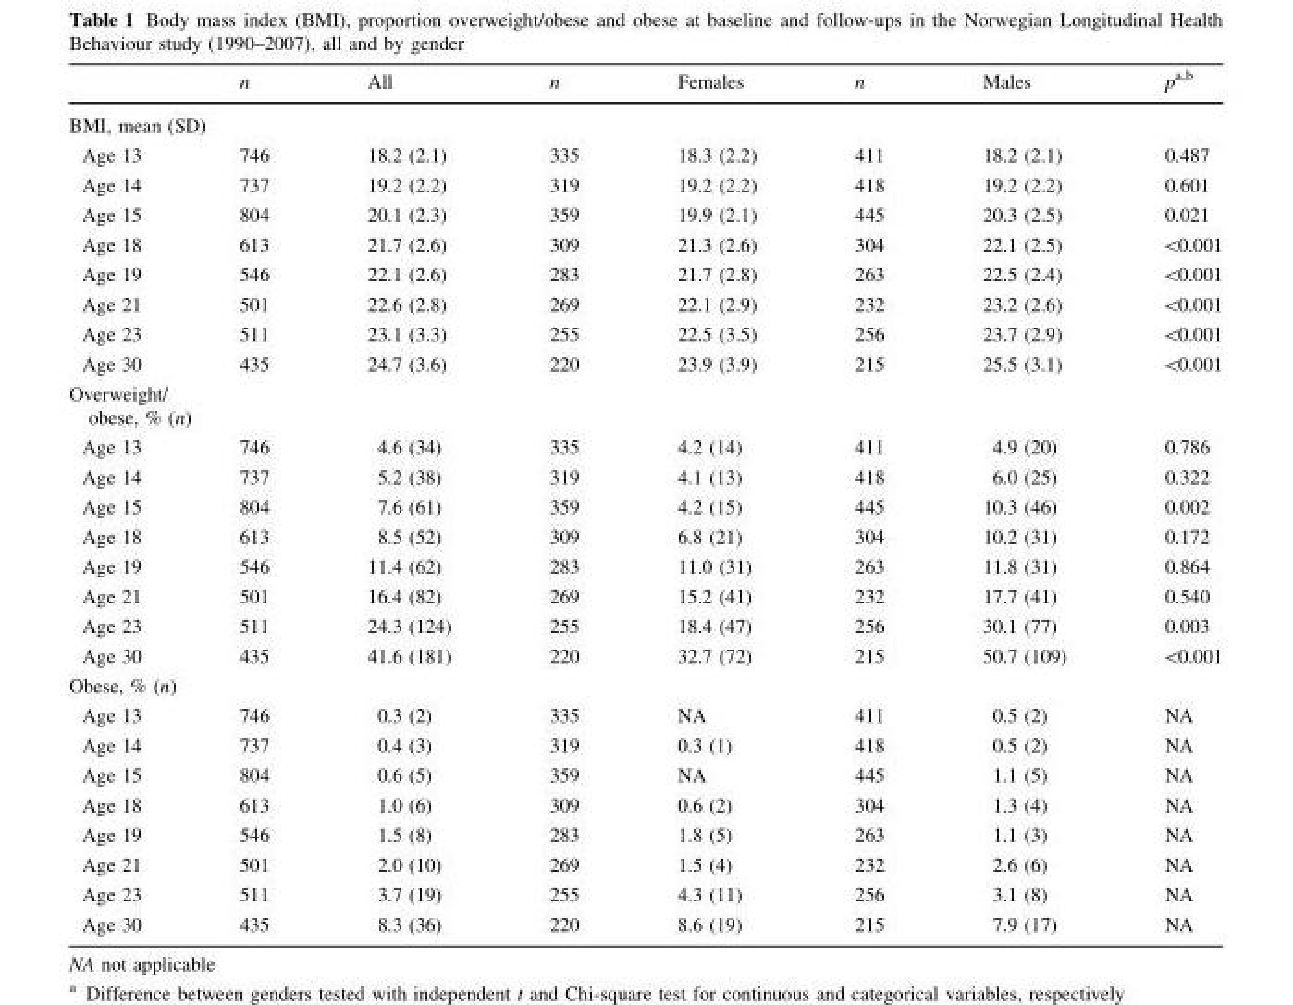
<table><thead><tr><td></td><td>n</td><td>All</td><td>n</td><td>Females</td><td>n</td><td>Males</td><td>p<sup>a,b</sup></td></tr></thead><tbody><tr><td colspan="8">BMI, mean (SD)</td></tr><tr><td>Age 13</td><td>746</td><td>18.2 (2.1)</td><td>335</td><td>18.3 (2.2)</td><td>411</td><td>18.2 (2.1)</td><td>0.487</td></tr><tr><td>Age 14</td><td>737</td><td>19.2 (2.2)</td><td>319</td><td>19.2 (2.2)</td><td>418</td><td>19.2 (2.2)</td><td>0.601</td></tr><tr><td>Age 15</td><td>804</td><td>20.1 (2.3)</td><td>359</td><td>19.9 (2.1)</td><td>445</td><td>20.3 (2.5)</td><td>0.021</td></tr><tr><td>Age 18</td><td>613</td><td>21.7 (2.6)</td><td>309</td><td>21.3 (2.6)</td><td>304</td><td>22.1 (2.5)</td><td>&lt;0.001</td></tr><tr><td>Age 19</td><td>546</td><td>22.1 (2.6)</td><td>283</td><td>21.7 (2.8)</td><td>263</td><td>22.5 (2.4)</td><td>&lt;0.001</td></tr><tr><td>Age 21</td><td>501</td><td>22.6 (2.8)</td><td>269</td><td>22.1 (2.9)</td><td>232</td><td>23.2 (2.6)</td><td>&lt;0.001</td></tr><tr><td>Age 23</td><td>511</td><td>23.1 (3.3)</td><td>255</td><td>22.5 (3.5)</td><td>256</td><td>23.7 (2.9)</td><td>&lt;0.001</td></tr><tr><td>Age 30</td><td>435</td><td>24.7 (3.6)</td><td>220</td><td>23.9 (3.9)</td><td>215</td><td>25.5 (3.1)</td><td>&lt;0.001</td></tr><tr><td colspan="8">Overweight/ obese, % (n)</td></tr><tr><td>Age 13</td><td>746</td><td>4.6 (34)</td><td>335</td><td>4.2 (14)</td><td>411</td><td>4.9 (20)</td><td>0.786</td></tr><tr><td>Age 14</td><td>737</td><td>5.2 (38)</td><td>319</td><td>4.1 (13)</td><td>418</td><td>6.0 (25)</td><td>0.322</td></tr><tr><td>Age 15</td><td>804</td><td>7.6 (61)</td><td>359</td><td>4.2 (15)</td><td>445</td><td>10.3 (46)</td><td>0.002</td></tr><tr><td>Age 18</td><td>613</td><td>8.5 (52)</td><td>309</td><td>6.8 (21)</td><td>304</td><td>10.2 (31)</td><td>0.172</td></tr><tr><td>Age 19</td><td>546</td><td>11.4 (62)</td><td>283</td><td>11.0 (31)</td><td>263</td><td>11.8 (31)</td><td>0.864</td></tr><tr><td>Age 21</td><td>501</td><td>16.4 (82)</td><td>269</td><td>15.2 (41)</td><td>232</td><td>17.7 (41)</td><td>0.540</td></tr><tr><td>Age 23</td><td>511</td><td>24.3 (124)</td><td>255</td><td>18.4 (47)</td><td>256</td><td>30.1 (77)</td><td>0.003</td></tr><tr><td>Age 30</td><td>435</td><td>41.6 (181)</td><td>220</td><td>32.7 (72)</td><td>215</td><td>50.7 (109)</td><td>&lt;0.001</td></tr><tr><td colspan="8">Obese, % (n)</td></tr><tr><td>Age 13</td><td>746</td><td>0.3 (2)</td><td>335</td><td>NA</td><td>411</td><td>0.5 (2)</td><td>NA</td></tr><tr><td>Age 14</td><td>737</td><td>0.4 (3)</td><td>319</td><td>0.3 (1)</td><td>418</td><td>0.5 (2)</td><td>NA</td></tr><tr><td>Age 15</td><td>804</td><td>0.6 (5)</td><td>359</td><td>NA</td><td>445</td><td>1.1 (5)</td><td>NA</td></tr><tr><td>Age 18</td><td>613</td><td>1.0 (6)</td><td>309</td><td>0.6 (2)</td><td>304</td><td>1.3 (4)</td><td>NA</td></tr><tr><td>Age 19</td><td>546</td><td>1.5 (8)</td><td>283</td><td>1.8 (5)</td><td>263</td><td>1.1 (3)</td><td>NA</td></tr><tr><td>Age 21</td><td>501</td><td>2.0 (10)</td><td>269</td><td>1.5 (4)</td><td>232</td><td>2.6 (6)</td><td>NA</td></tr><tr><td>Age 23</td><td>511</td><td>3.7 (19)</td><td>255</td><td>4.3 (11)</td><td>256</td><td>3.1 (8)</td><td>NA</td></tr><tr><td>Age 30</td><td>435</td><td>8.3 (36)</td><td>220</td><td>8.6 (19)</td><td>215</td><td>7.9 (17)</td><td>NA</td></tr></tbody></table>